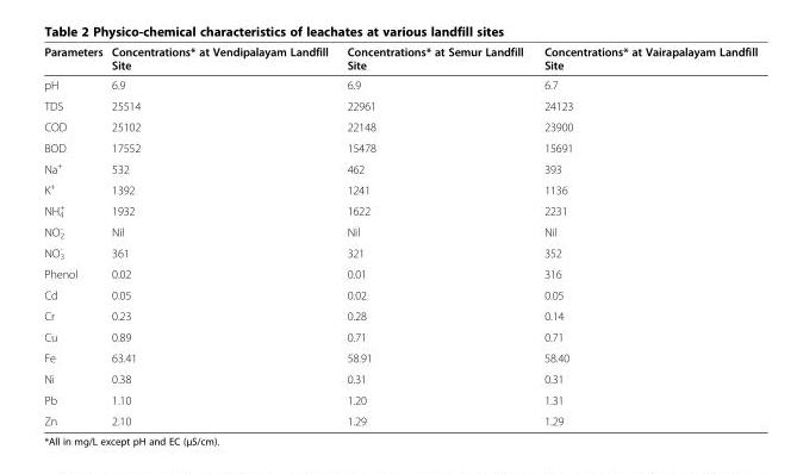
<table><thead><tr><td>Parameters</td><td>Concentrations* at Vendipalayam Landfill Site</td><td>Concentrations* at Semur Landfill Site</td><td>Concentrations* at Vairapalayam Landfill Site</td></tr></thead><tbody><tr><td>pH</td><td>6.9</td><td>6.9</td><td>6.7</td></tr><tr><td>TDS</td><td>25514</td><td>22961</td><td>24123</td></tr><tr><td>COD</td><td>25102</td><td>22148</td><td>23900</td></tr><tr><td>BOD</td><td>17552</td><td>15478</td><td>15691</td></tr><tr><td>Na<sup>+</sup></td><td>532</td><td>462</td><td>393</td></tr><tr><td>K<sup>+</sup></td><td>1392</td><td>1241</td><td>1136</td></tr><tr><td>NH<sub>4</sub> <sup>+</sup></td><td>1932</td><td>1622</td><td>2231</td></tr><tr><td>NO<sub>2</sub> <sup>-</sup></td><td>Nil</td><td>Nil</td><td>Nil</td></tr><tr><td>NO<sub>3</sub> <sup>-</sup></td><td>361</td><td>321</td><td>352</td></tr><tr><td>Phenol</td><td>0.02</td><td>0.01</td><td>316</td></tr><tr><td>Cd</td><td>0.05</td><td>0.02</td><td>0.05</td></tr><tr><td>Cr</td><td>0.23</td><td>0.28</td><td>0.14</td></tr><tr><td>Cu</td><td>0.89</td><td>0.71</td><td>0.71</td></tr><tr><td>Fe</td><td>63.41</td><td>58.91</td><td>58.40</td></tr><tr><td>Ni</td><td>0.38</td><td>0.31</td><td>0.31</td></tr><tr><td>Pb</td><td>1.10</td><td>1.20</td><td>1.31</td></tr><tr><td>Zn</td><td>2.10</td><td>1.29</td><td>1.29</td></tr></tbody></table>